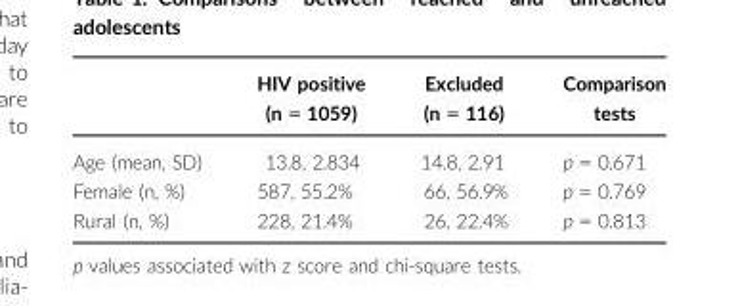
<table><thead><tr><td></td><td>HIV positive (n = 1059)</td><td>Excluded (n = 116)</td><td>Comparison tests</td></tr></thead><tbody><tr><td>Age (mean, SD)</td><td>13.8, 2.834</td><td>14.8, 2.91</td><td>p = 0.671</td></tr><tr><td>Female (n, %)</td><td>587, 55.2%</td><td>66, 56.9%</td><td>p = 0.769</td></tr><tr><td>Rural (n, %)</td><td>228, 21.4%</td><td>26, 22.4%</td><td>p = 0.813</td></tr></tbody></table>